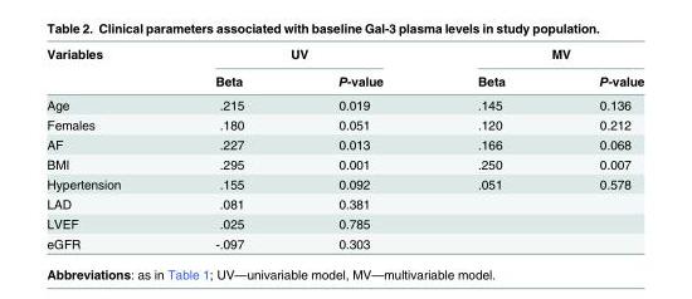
<table><thead><tr><td rowspan="2">Variables</td><td colspan="2">UV</td><td colspan="2">MV</td></tr><tr><td>Beta</td><td>P-value</td><td>Beta</td><td>P-value</td></tr></thead><tbody><tr><td>Age</td><td>.215</td><td>0.019</td><td>.145</td><td>0.136</td></tr><tr><td>Females</td><td>.180</td><td>0.051</td><td>.120</td><td>0.212</td></tr><tr><td>AF</td><td>.227</td><td>0.013</td><td>.166</td><td>0.068</td></tr><tr><td>BMI</td><td>.295</td><td>0.001</td><td>.250</td><td>0.007</td></tr><tr><td>Hypertension</td><td>.155</td><td>0.092</td><td>.051</td><td>0.578</td></tr><tr><td>LAD</td><td>.081</td><td>0.381</td><td></td><td></td></tr><tr><td>LVEF</td><td>.025</td><td>0.785</td><td></td><td></td></tr><tr><td>eGFR</td><td>-.097</td><td>0.303</td><td></td><td></td></tr></tbody></table>